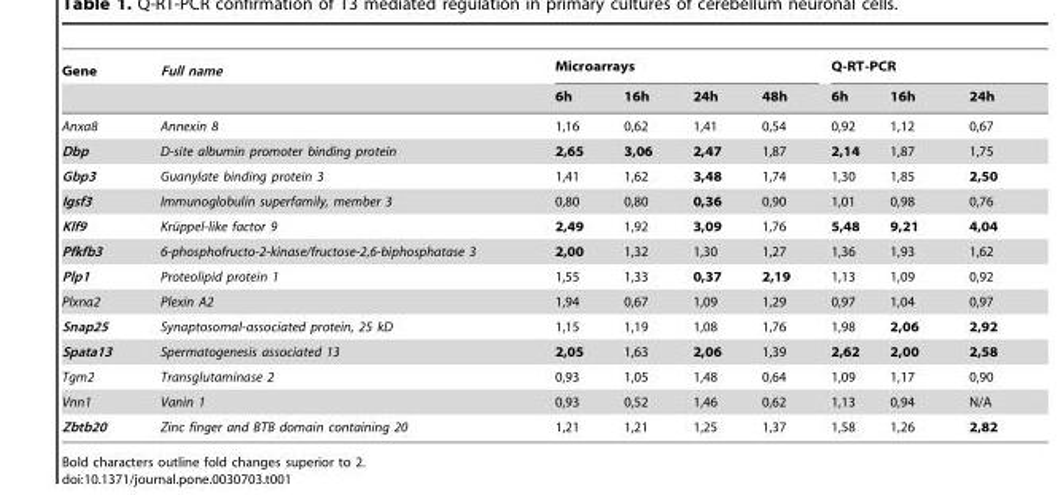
<table><thead><tr><td rowspan="2">Gene</td><td rowspan="2">Full name</td><td colspan="4">Microarrays</td><td colspan="3">Q-RT-PCR</td></tr><tr><td>6h</td><td>16h</td><td>24h</td><td>48h</td><td>6h</td><td>16h</td><td>24h</td></tr></thead><tbody><tr><td>Anxa8</td><td>Annexin 8</td><td>1,16</td><td>0,62</td><td>1,41</td><td>0,54</td><td>0,92</td><td>1,12</td><td>0,67</td></tr><tr><td>Dbp</td><td>D-site albumin promoter binding protein</td><td>2,65</td><td>3,06</td><td>2,47</td><td>1,87</td><td>2,14</td><td>1,87</td><td>1,75</td></tr><tr><td>Gbp3</td><td>Guanylate binding protein 3</td><td>1,41</td><td>1,62</td><td>3,48</td><td>1,74</td><td>1,30</td><td>1,85</td><td>2,50</td></tr><tr><td>Igsf3</td><td>Immunoglobulin superfamily, member 3</td><td>0,80</td><td>0,80</td><td>0,36</td><td>0,90</td><td>1,01</td><td>0,98</td><td>0,76</td></tr><tr><td>Klf9</td><td>Kru¨ppel-like factor 9</td><td>2,49</td><td>1,92</td><td>3,09</td><td>1,76</td><td>5,48</td><td>9,21</td><td>4,04</td></tr><tr><td>Pfkfb3</td><td>6-phosphofructo-2-kinase/fructose-2,6-biphosphatase 3</td><td>2,00</td><td>1,32</td><td>1,30</td><td>1,27</td><td>1,36</td><td>1,93</td><td>1,62</td></tr><tr><td>Plp1</td><td>Proteolipid protein 1</td><td>1,55</td><td>1,33</td><td>0,37</td><td>2,19</td><td>1,13</td><td>1,09</td><td>0,92</td></tr><tr><td>Plxna2</td><td>Plexin A2</td><td>1,94</td><td>0,67</td><td>1,09</td><td>1,29</td><td>0,97</td><td>1,04</td><td>0,97</td></tr><tr><td>Snap25</td><td>Synaptosomal-associated protein, 25 kD</td><td>1,15</td><td>1,19</td><td>1,08</td><td>1,76</td><td>1,98</td><td>2,06</td><td>2,92</td></tr><tr><td>Spata13</td><td>Spermatogenesis associated 13</td><td>2,05</td><td>1,63</td><td>2,06</td><td>1,39</td><td>2,62</td><td>2,00</td><td>2,58</td></tr><tr><td>Tgm2</td><td>Transglutaminase 2</td><td>0,93</td><td>1,05</td><td>1,48</td><td>0,64</td><td>1,09</td><td>1,17</td><td>0,90</td></tr><tr><td>Vnn1</td><td>Vanin 1</td><td>0,93</td><td>0,52</td><td>1,46</td><td>0,62</td><td>1,13</td><td>0,94</td><td>N/A</td></tr><tr><td>Zbtb20</td><td>Zinc finger and BTB domain containing 20</td><td>1,21</td><td>1,21</td><td>1,25</td><td>1,37</td><td>1,58</td><td>1,26</td><td>2,82</td></tr></tbody></table>